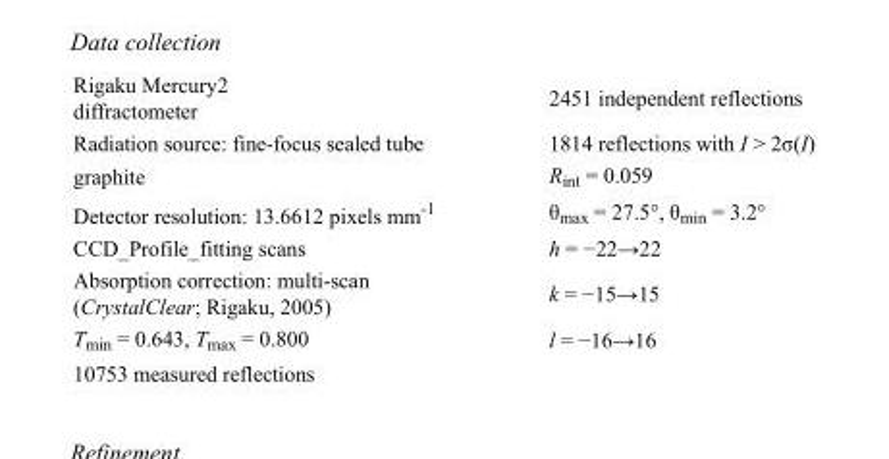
<table><tbody><tr><td>Rigaku Mercury2 diffractometer</td><td>2451 independent reflections</td></tr><tr><td>Radiation source: fine-focus sealed tube</td><td>1814 reflections with I &gt; 2σ(I)</td></tr><tr><td>graphite</td><td>R<sub>int</sub> = 0.059</td></tr><tr><td>Detector resolution: 13.6612 pixels mm<sup>-1</sup></td><td>θ<sub>max</sub> = 27.5°, θ<sub>min</sub> = 3.2°</td></tr><tr><td>CCD_Profile_fitting scans</td><td>h = −22→22</td></tr><tr><td>Absorption correction: multi-scan (CrystalClear; Rigaku, 2005)</td><td>k = −15→15</td></tr><tr><td>T<sub>min</sub> = 0.643, T<sub>max</sub> = 0.800</td><td>l = −16→16</td></tr><tr><td>10753 measured reflections</td><td></td></tr></tbody></table>